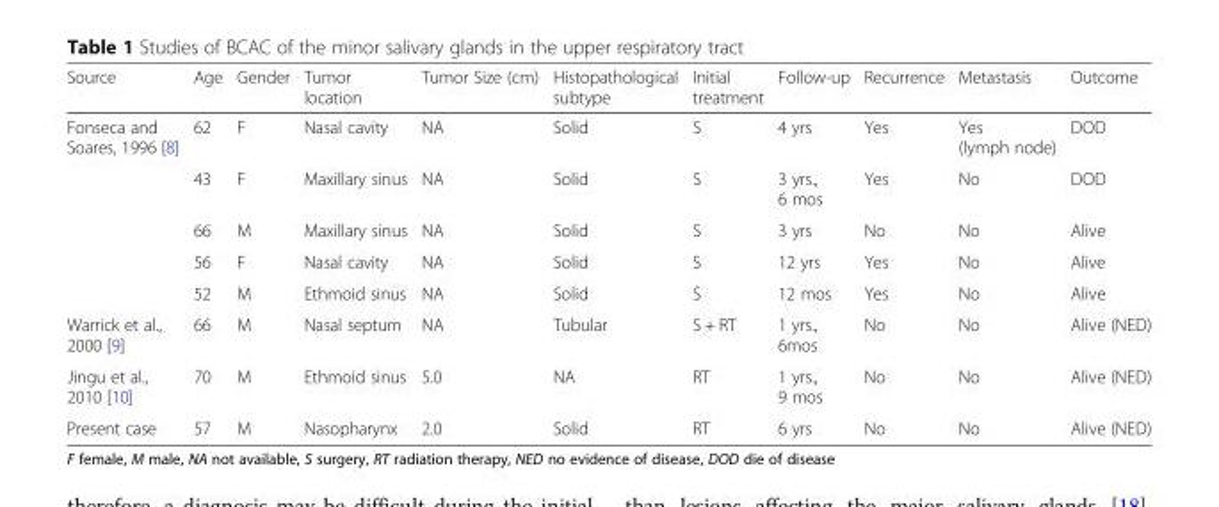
<table><thead><tr><td>Source</td><td>Age</td><td>Gender</td><td>Tumor location</td><td>Tumor Size (cm)</td><td>Histopathological subtype</td><td>Initial treatment</td><td>Follow-up</td><td>Recurrence</td><td>Metastasis</td><td>Outcome</td></tr></thead><tbody><tr><td rowspan="5">Fonseca and Soares, 1996 [8]</td><td>62</td><td>F</td><td>Nasal cavity</td><td>NA</td><td>Solid</td><td>S</td><td>4 yrs</td><td>Yes</td><td>Yes (lymph node)</td><td>DOD</td></tr><tr><td>43</td><td>F</td><td>Maxillary sinus</td><td>NA</td><td>Solid</td><td>S</td><td>3 yrs., 6 mos</td><td>Yes</td><td>No</td><td>DOD</td></tr><tr><td>66</td><td>M</td><td>Maxillary sinus</td><td>NA</td><td>Solid</td><td>S</td><td>3 yrs</td><td>No</td><td>No</td><td>Alive</td></tr><tr><td>56</td><td>F</td><td>Nasal cavity</td><td>NA</td><td>Solid</td><td>S</td><td>12 yrs</td><td>Yes</td><td>No</td><td>Alive</td></tr><tr><td>52</td><td>M</td><td>Ethmoid sinus</td><td>NA</td><td>Solid</td><td>S</td><td>12 mos</td><td>Yes</td><td>No</td><td>Alive</td></tr><tr><td>Warrick et al., 2000 [9]</td><td>66</td><td>M</td><td>Nasal septum</td><td>NA</td><td>Tubular</td><td>S + RT</td><td>1 yrs., 6mos</td><td>No</td><td>No</td><td>Alive (NED)</td></tr><tr><td>Jingu et al., 2010 [10]</td><td>70</td><td>M</td><td>Ethmoid sinus</td><td>5.0</td><td>NA</td><td>RT</td><td>1 yrs., 9 mos</td><td>No</td><td>No</td><td>Alive (NED)</td></tr><tr><td>Present case</td><td>57</td><td>M</td><td>Nasopharynx</td><td>2.0</td><td>Solid</td><td>RT</td><td>6 yrs</td><td>No</td><td>No</td><td>Alive (NED)</td></tr></tbody></table>